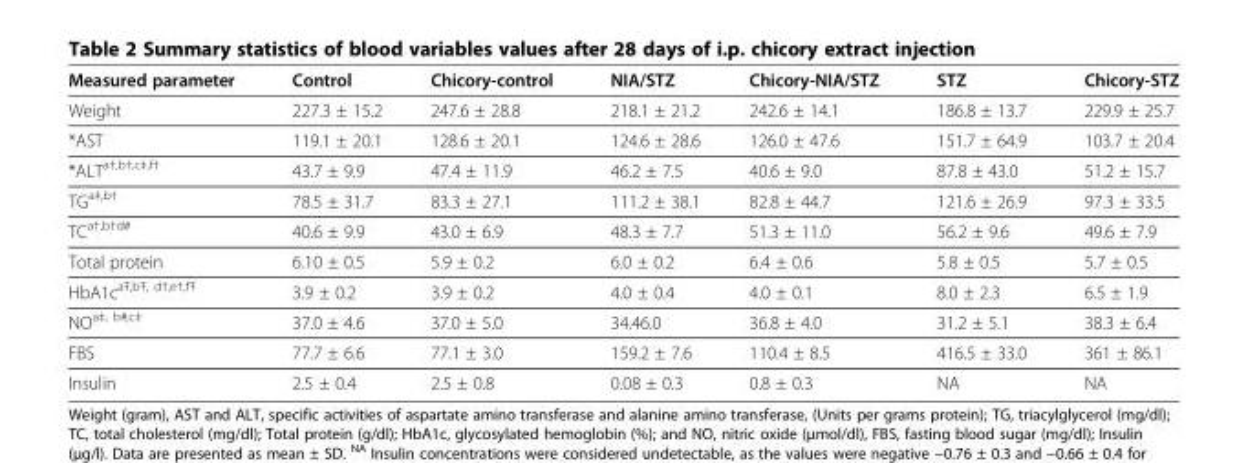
<table><thead><tr><td>Measured parameter</td><td>Control</td><td>Chicory-control</td><td>NIA/STZ</td><td>Chicory-NIA/STZ</td><td>STZ</td><td>Chicory-STZ</td></tr></thead><tbody><tr><td>Weight</td><td>227.3 ± 15.2</td><td>247.6 ± 28.8</td><td>218.1 ± 21.2</td><td>242.6 ± 14.1</td><td>186.8 ± 13.7</td><td>229.9 ± 25.7</td></tr><tr><td>*AST</td><td>119.1 ± 20.1</td><td>128.6 ± 20.1</td><td>124.6 ± 28.6</td><td>126.0 ± 47.6</td><td>151.7 ± 64.9</td><td>103.7 ± 20.4</td></tr><tr><td>*ALT<sup>a†,b†,c‡,f†</sup></td><td>43.7 ± 9.9</td><td>47.4 ± 11.9</td><td>46.2 ± 7.5</td><td>40.6 ± 9.0</td><td>87.8 ± 43.0</td><td>51.2 ± 15.7</td></tr><tr><td>TG<sup>a‡,b†</sup></td><td>78.5 ± 31.7</td><td>83.3 ± 27.1</td><td>111.2 ± 38.1</td><td>82.8 ± 44.7</td><td>121.6 ± 26.9</td><td>97.3 ± 33.5</td></tr><tr><td>TC<sup>a†,b†d#</sup></td><td>40.6 ± 9.9</td><td>43.0 ± 6.9</td><td>48.3 ± 7.7</td><td>51.3 ± 11.0</td><td>56.2 ± 9.6</td><td>49.6 ± 7.9</td></tr><tr><td>Total protein</td><td>6.10 ± 0.5</td><td>5.9 ± 0.2</td><td>6.0 ± 0.2</td><td>6.4 ± 0.6</td><td>5.8 ± 0.5</td><td>5.7 ± 0.5</td></tr><tr><td>HbA1c<sup>aŦ,bŦ, d†,e†,fŦ</sup></td><td>3.9 ± 0.2</td><td>3.9 ± 0.2</td><td>4.0 ± 0.4</td><td>4.0 ± 0.1</td><td>8.0 ± 2.3</td><td>6.5 ± 1.9</td></tr><tr><td>NO<sup>a‡, b#,c‡</sup></td><td>37.0 ± 4.6</td><td>37.0 ± 5.0</td><td>34.46.0</td><td>36.8 ± 4.0</td><td>31.2 ± 5.1</td><td>38.3 ± 6.4</td></tr><tr><td>FBS</td><td>77.7 ± 6.6</td><td>77.1 ± 3.0</td><td>159.2 ± 7.6</td><td>110.4 ± 8.5</td><td>416.5 ± 33.0</td><td>361 ± 86.1</td></tr><tr><td>Insulin</td><td>2.5 ± 0.4</td><td>2.5 ± 0.8</td><td>0.08 ± 0.3</td><td>0.8 ± 0.3</td><td>NA</td><td>NA</td></tr></tbody></table>